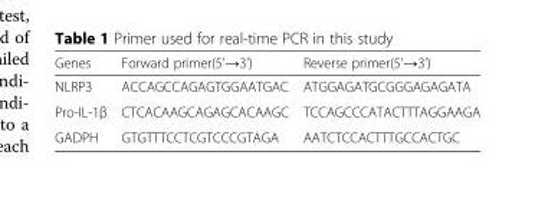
<table><thead><tr><td>Genes</td><td>Forward primer(5&#x27;→3&#x27;)</td><td>Reverse primer(5&#x27;→3&#x27;)</td></tr></thead><tbody><tr><td>NLRP3</td><td>ACCAGCCAGAGTGGAATGAC</td><td>ATGGAGATGCGGGAGAGATA</td></tr><tr><td>Pro-IL-1β</td><td>CTCACAAGCAGAGCACAAGC</td><td>TCCAGCCCATACTTTAGGAAGA</td></tr><tr><td>GADPH</td><td>GTGTTTCCTCGTCCCGTAGA</td><td>AATCTCCACTTTGCCACTGC</td></tr></tbody></table>